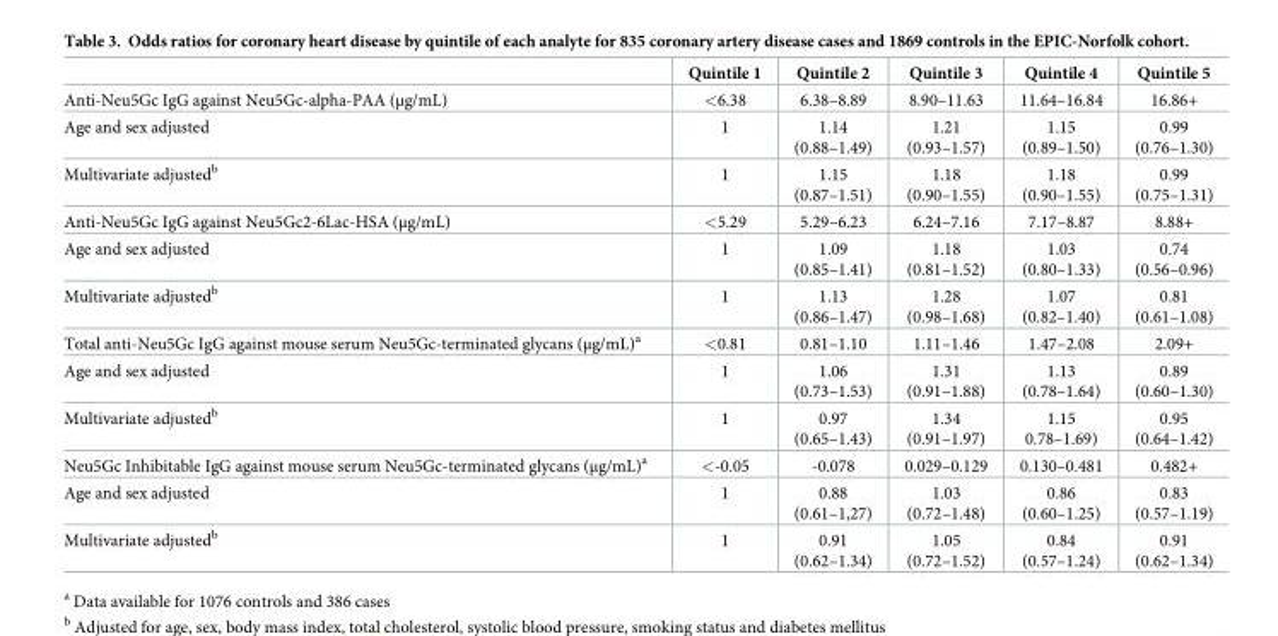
<table><thead><tr><td></td><td>Quintile 1</td><td>Quintile 2</td><td>Quintile 3</td><td>Quintile 4</td><td>Quintile 5</td></tr></thead><tbody><tr><td>Anti-Neu5Gc IgG against Neu5Gc-alpha-PAA (μg/mL)</td><td>&lt;6.38</td><td>6.38–8.89</td><td>8.90–11.63</td><td>11.64–16.84</td><td>16.86+</td></tr><tr><td>Age and sex adjusted</td><td>1</td><td>1.14 (0.88–1.49)</td><td>1.21 (0.93–1.57)</td><td>1.15 (0.89–1.50)</td><td>0.99 (0.76–1.30)</td></tr><tr><td>Multivariate adjusted<sup>b</sup></td><td>1</td><td>1.15 (0.87–1.51)</td><td>1.18 (0.90–1.55)</td><td>1.18 (0.90–1.55)</td><td>0.99 (0.75–1.31)</td></tr><tr><td>Anti-Neu5Gc IgG against Neu5Gc2-6Lac-HSA (μg/mL)</td><td>&lt;5.29</td><td>5.29–6.23</td><td>6.24–7.16</td><td>7.17–8.87</td><td>8.88+</td></tr><tr><td>Age and sex adjusted</td><td>1</td><td>1.09 (0.85–1.41)</td><td>1.18 (0.81–1.52)</td><td>1.03 (0.80–1.33)</td><td>0.74 (0.56–0.96)</td></tr><tr><td>Multivariate adjusted<sup>b</sup></td><td>1</td><td>1.13 (0.86–1.47)</td><td>1.28 (0.98–1.68)</td><td>1.07 (0.82–1.40)</td><td>0.81 (0.61–1.08)</td></tr><tr><td>Total anti-Neu5Gc IgG against mouse serum Neu5Gc-terminated glycans (μg/mL)<sup>a</sup></td><td>&lt;0.81</td><td>0.81–1.10</td><td>1.11–1.46</td><td>1.47–2.08</td><td>2.09+</td></tr><tr><td>Age and sex adjusted</td><td>1</td><td>1.06 (0.73–1.53)</td><td>1.31 (0.91–1.88)</td><td>1.13 (0.78–1.64)</td><td>0.89 (0.60–1.30)</td></tr><tr><td>Multivariate adjusted<sup>b</sup></td><td>1</td><td>0.97 (0.65–1.43)</td><td>1.34 (0.91–1.97)</td><td>1.15 0.78–1.69)</td><td>0.95 (0.64–1.42)</td></tr><tr><td>Neu5Gc Inhibitable IgG against mouse serum Neu5Gc-terminated glycans (μg/mL)<sup>a</sup></td><td>&lt;-0.05</td><td>-0.078</td><td>0.029–0.129</td><td>0.130–0.481</td><td>0.482+</td></tr><tr><td>Age and sex adjusted</td><td>1</td><td>0.88 (0.61–1,27)</td><td>1.03 (0.72–1.48)</td><td>0.86 (0.60–1.25)</td><td>0.83 (0.57–1.19)</td></tr><tr><td>Multivariate adjusted<sup>b</sup></td><td>1</td><td>0.91 (0.62–1.34)</td><td>1.05 (0.72–1.52)</td><td>0.84 (0.57–1.24)</td><td>0.91 (0.62–1.34)</td></tr></tbody></table>